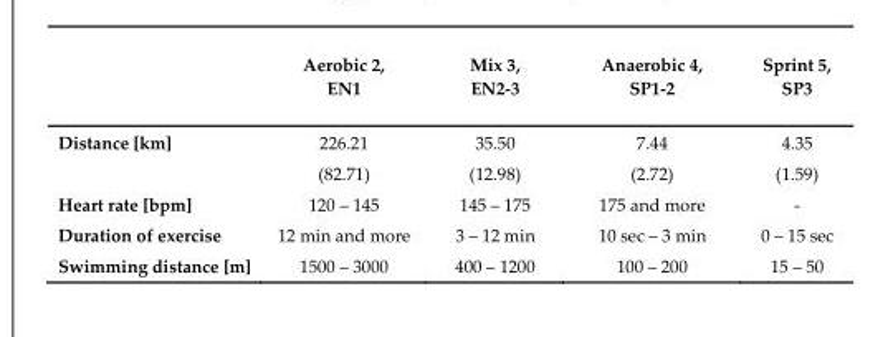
<table><thead><tr><td></td><td>Aerobic 2, EN1</td><td>Mix 3, EN2-3</td><td>Anaerobic 4, SP1-2</td><td>Sprint 5, SP3</td></tr></thead><tbody><tr><td>Distance [km]</td><td>226.21 (82.71)</td><td>35.50 (12.98)</td><td>7.44 (2.72)</td><td>4.35 (1.59)</td></tr><tr><td>Heart rate [bpm]</td><td>120 – 145</td><td>145 – 175</td><td>175 and more</td><td>-</td></tr><tr><td>Duration of exercise</td><td>12 min and more</td><td>3 – 12 min</td><td>10 sec – 3 min</td><td>0 – 15 sec</td></tr><tr><td>Swimming distance [m]</td><td>1500 – 3000</td><td>400 – 1200</td><td>100 – 200</td><td>15 – 50</td></tr></tbody></table>